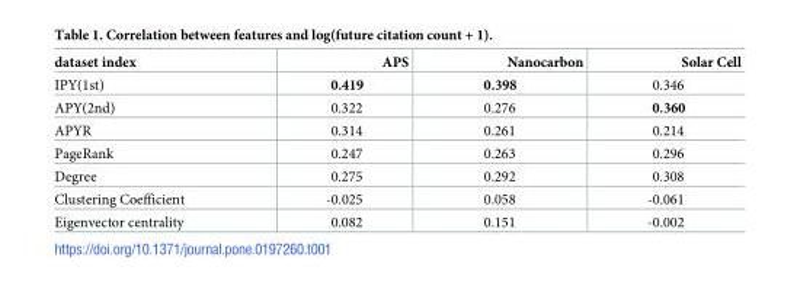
<table><thead><tr><td>dataset index</td><td>APS</td><td>Nanocarbon</td><td>Solar Cell</td></tr></thead><tbody><tr><td>IPY(1st)</td><td>0.419</td><td>0.398</td><td>0.346</td></tr><tr><td>APY(2nd)</td><td>0.322</td><td>0.276</td><td>0.360</td></tr><tr><td>APYR</td><td>0.314</td><td>0.261</td><td>0.214</td></tr><tr><td>PageRank</td><td>0.247</td><td>0.263</td><td>0.296</td></tr><tr><td>Degree</td><td>0.275</td><td>0.292</td><td>0.308</td></tr><tr><td>Clustering Coefficient</td><td>-0.025</td><td>0.058</td><td>-0.061</td></tr><tr><td>Eigenvector centrality</td><td>0.082</td><td>0.151</td><td>-0.002</td></tr></tbody></table>